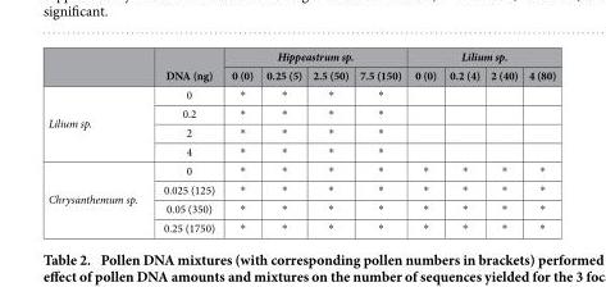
<table><thead><tr><td rowspan="2"></td><td rowspan="2">DNA (ng)</td><td colspan="4">Hippeastrum sp.</td><td colspan="4">Lilium sp.</td></tr><tr><td>0 (0)</td><td>0.25 (5)</td><td>2.5 (50)</td><td>7.5 (150)</td><td>0 (0)</td><td>0.2 (4)</td><td>2 (40)</td><td>4 (80)</td></tr></thead><tbody><tr><td rowspan="4">Lilium sp.</td><td>0</td><td>*</td><td>*</td><td>*</td><td>*</td><td></td><td></td><td></td><td></td></tr><tr><td>0.2</td><td>*</td><td>*</td><td>*</td><td>*</td><td></td><td></td><td></td><td></td></tr><tr><td>2</td><td>*</td><td>*</td><td>*</td><td>*</td><td></td><td></td><td></td><td></td></tr><tr><td>4</td><td>*</td><td>*</td><td>*</td><td>*</td><td></td><td></td><td></td><td></td></tr><tr><td rowspan="4">Chrysanthemum sp.</td><td>0</td><td>*</td><td>*</td><td>*</td><td>*</td><td>*</td><td>*</td><td>*</td><td>*</td></tr><tr><td>0.025 (125)</td><td>*</td><td>*</td><td>*</td><td>*</td><td>*</td><td>*</td><td>*</td><td>*</td></tr><tr><td>0.05 (350)</td><td>*</td><td>*</td><td>*</td><td>*</td><td>*</td><td>*</td><td>*</td><td>*</td></tr><tr><td>0.25 (1750)</td><td>*</td><td>*</td><td>*</td><td>*</td><td>*</td><td>*</td><td>*</td><td>*</td></tr></tbody></table>